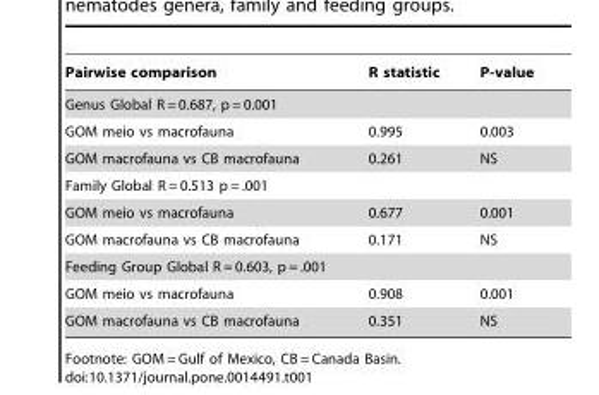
<table><thead><tr><td>Pairwise comparison</td><td>R statistic</td><td>P-value</td></tr></thead><tbody><tr><td colspan="3">Genus Global R = 0.687, p = 0.001</td></tr><tr><td>GOM meio vs macrofauna</td><td>0.995</td><td>0.003</td></tr><tr><td>GOM macrofauna vs CB macrofauna</td><td>0.261</td><td>NS</td></tr><tr><td colspan="3">Family Global R = 0.513 p = .001</td></tr><tr><td>GOM meio vs macrofauna</td><td>0.677</td><td>0.001</td></tr><tr><td>GOM macrofauna vs CB macrofauna</td><td>0.171</td><td>NS</td></tr><tr><td colspan="3">Feeding Group Global R = 0.603, p = .001</td></tr><tr><td>GOM meio vs macrofauna</td><td>0.908</td><td>0.001</td></tr><tr><td>GOM macrofauna vs CB macrofauna</td><td>0.351</td><td>NS</td></tr></tbody></table>